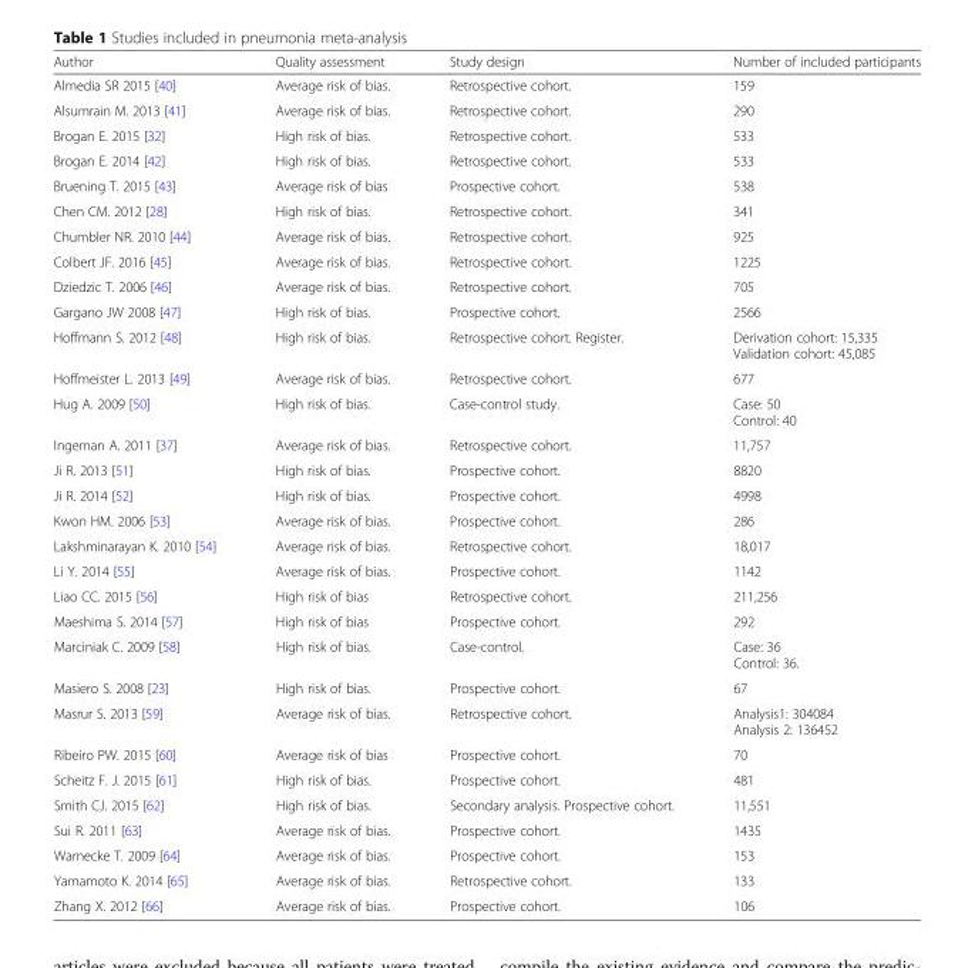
<table><thead><tr><td>Author</td><td>Quality assessment</td><td>Study design</td><td>Number of included participants</td></tr></thead><tbody><tr><td>Almedia SR 2015 [40]</td><td>Average risk of bias.</td><td>Retrospective cohort.</td><td>159</td></tr><tr><td>Alsumrain M. 2013 [41]</td><td>Average risk of bias.</td><td>Retrospective cohort.</td><td>290</td></tr><tr><td>Brogan E. 2015 [32]</td><td>High risk of bias.</td><td>Retrospective cohort.</td><td>533</td></tr><tr><td>Brogan E. 2014 [42]</td><td>High risk of bias.</td><td>Retrospective cohort.</td><td>533</td></tr><tr><td>Bruening T. 2015 [43]</td><td>Average risk of bias</td><td>Prospective cohort.</td><td>538</td></tr><tr><td>Chen CM. 2012 [28]</td><td>High risk of bias.</td><td>Retrospective cohort.</td><td>341</td></tr><tr><td>Chumbler NR. 2010 [44]</td><td>Average risk of bias.</td><td>Retrospective cohort.</td><td>925</td></tr><tr><td>Colbert JF. 2016 [45]</td><td>Average risk of bias.</td><td>Retrospective cohort.</td><td>1225</td></tr><tr><td>Dziedzic T. 2006 [46]</td><td>Average risk of bias.</td><td>Retrospective cohort.</td><td>705</td></tr><tr><td>Gargano JW 2008 [47]</td><td>High risk of bias.</td><td>Prospective cohort.</td><td>2566</td></tr><tr><td>Hoffmann S. 2012 [48]</td><td>High risk of bias.</td><td>Retrospective cohort. Register.</td><td>Derivation cohort: 15,335 Validation cohort: 45,085</td></tr><tr><td>Hoffmeister L. 2013 [49]</td><td>Average risk of bias.</td><td>Retrospective cohort.</td><td>677</td></tr><tr><td>Hug A. 2009 [50]</td><td>High risk of bias.</td><td>Case-control study.</td><td>Case: 50 Control: 40</td></tr><tr><td>Ingeman A. 2011 [37]</td><td>Average risk of bias.</td><td>Retrospective cohort.</td><td>11,757</td></tr><tr><td>Ji R. 2013 [51]</td><td>High risk of bias.</td><td>Prospective cohort.</td><td>8820</td></tr><tr><td>Ji R. 2014 [52]</td><td>High risk of bias.</td><td>Prospective cohort.</td><td>4998</td></tr><tr><td>Kwon HM. 2006 [53]</td><td>Average risk of bias.</td><td>Prospective cohort.</td><td>286</td></tr><tr><td>Lakshminarayan K. 2010 [54]</td><td>Average risk of bias.</td><td>Retrospective cohort.</td><td>18,017</td></tr><tr><td>Li Y. 2014 [55]</td><td>Average risk of bias.</td><td>Prospective cohort.</td><td>1142</td></tr><tr><td>Liao CC. 2015 [56]</td><td>High risk of bias</td><td>Retrospective cohort.</td><td>211,256</td></tr><tr><td>Maeshima S. 2014 [57]</td><td>High risk of bias</td><td>Prospective cohort.</td><td>292</td></tr><tr><td>Marciniak C. 2009 [58]</td><td>High risk of bias.</td><td>Case-control.</td><td>Case: 36 Control: 36.</td></tr><tr><td>Masiero S. 2008 [23]</td><td>High risk of bias.</td><td>Prospective cohort.</td><td>67</td></tr><tr><td>Masrur S. 2013 [59]</td><td>Average risk of bias.</td><td>Retrospective cohort.</td><td>Analysis1: 304084 Analysis 2: 136452</td></tr><tr><td>Ribeiro PW. 2015 [60]</td><td>Average risk of bias</td><td>Prospective cohort.</td><td>70</td></tr><tr><td>Scheitz F. J. 2015 [61]</td><td>High risk of bias.</td><td>Prospective cohort.</td><td>481</td></tr><tr><td>Smith CJ. 2015 [62]</td><td>High risk of bias.</td><td>Secondary analysis. Prospective cohort.</td><td>11,551</td></tr><tr><td>Sui R. 2011 [63]</td><td>Average risk of bias.</td><td>Prospective cohort.</td><td>1435</td></tr><tr><td>Warnecke T. 2009 [64]</td><td>Average risk of bias.</td><td>Prospective cohort.</td><td>153</td></tr><tr><td>Yamamoto K. 2014 [65]</td><td>Average risk of bias.</td><td>Retrospective cohort.</td><td>133</td></tr><tr><td>Zhang X. 2012 [66]</td><td>Average risk of bias.</td><td>Prospective cohort.</td><td>106</td></tr></tbody></table>